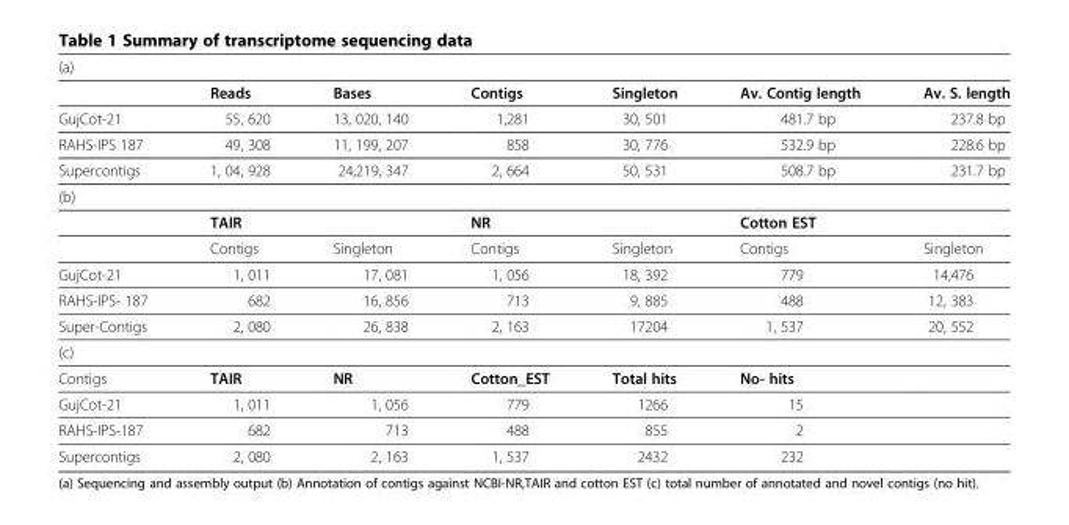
<table><thead><tr><td colspan="7">(a)</td></tr><tr><td></td><td>Reads</td><td>Bases</td><td>Contigs</td><td>Singleton</td><td>Av. Contig length</td><td>Av. S. length</td></tr></thead><tbody><tr><td>GujCot-21</td><td>55, 620</td><td>13, 020, 140</td><td>1,281</td><td>30, 501</td><td>481.7 bp</td><td>237.8 bp</td></tr><tr><td>RAHS-IPS 187</td><td>49, 308</td><td>11, 199, 207</td><td>858</td><td>30, 776</td><td>532.9 bp</td><td>228.6 bp</td></tr><tr><td>Supercontigs</td><td>1, 04, 928</td><td>24,219, 347</td><td>2, 664</td><td>50, 531</td><td>508.7 bp</td><td>231.7 bp</td></tr><tr><td colspan="7">(b)</td></tr><tr><td></td><td colspan="2">TAIR</td><td colspan="2">NR</td><td colspan="2">Cotton EST</td></tr><tr><td></td><td>Contigs</td><td>Singleton</td><td>Contigs</td><td>Singleton</td><td>Contigs</td><td>Singleton</td></tr><tr><td>GujCot-21</td><td>1, 011</td><td>17, 081</td><td>1, 056</td><td>18, 392</td><td>779</td><td>14,476</td></tr><tr><td>RAHS-IPS- 187</td><td>682</td><td>16, 856</td><td>713</td><td>9, 885</td><td>488</td><td>12, 383</td></tr><tr><td>Super-Contigs</td><td>2, 080</td><td>26, 838</td><td>2, 163</td><td>17204</td><td>1, 537</td><td>20, 552</td></tr><tr><td colspan="7">(c)</td></tr><tr><td>Contigs</td><td>TAIR</td><td>NR</td><td>Cotton_EST</td><td>Total hits</td><td>No- hits</td><td></td></tr><tr><td>GujCot-21</td><td>1, 011</td><td>1, 056</td><td>779</td><td>1266</td><td>15</td><td></td></tr><tr><td>RAHS-IPS-187</td><td>682</td><td>713</td><td>488</td><td>855</td><td>2</td><td></td></tr><tr><td>Supercontigs</td><td>2, 080</td><td>2, 163</td><td>1, 537</td><td>2432</td><td>232</td><td></td></tr></tbody></table>